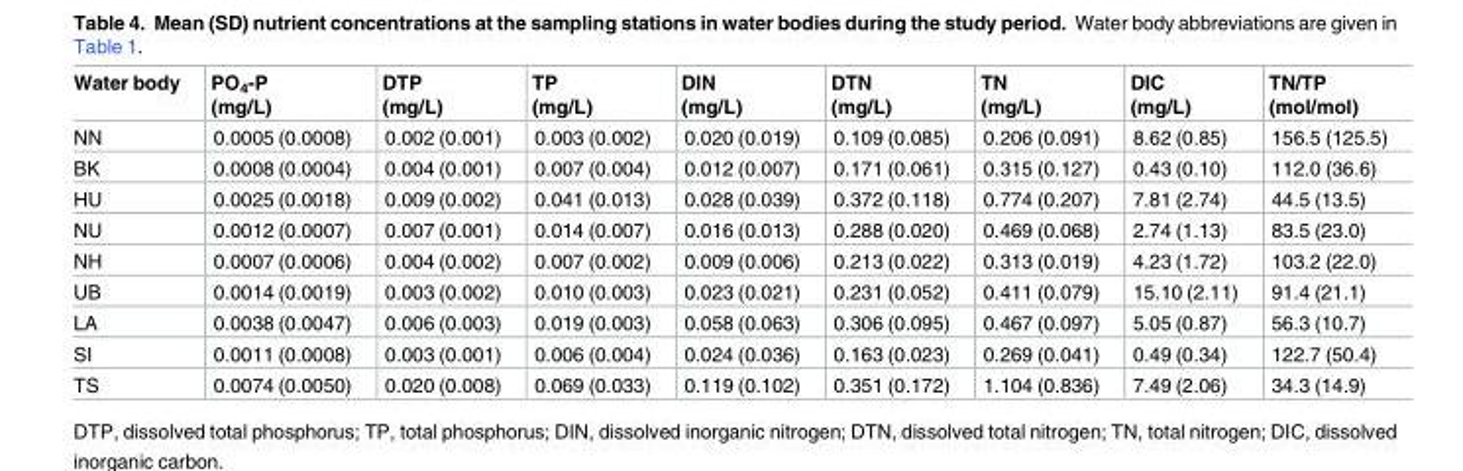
<table><thead><tr><td>Water body</td><td>PO<sub>4</sub>-P (mg/L)</td><td>DTP (mg/L)</td><td>TP (mg/L)</td><td>DIN (mg/L)</td><td>DTN (mg/L)</td><td>TN (mg/L)</td><td>DIC (mg/L)</td><td>TN/TP (mol/mol)</td></tr></thead><tbody><tr><td>NN</td><td>0.0005 (0.0008)</td><td>0.002 (0.001)</td><td>0.003 (0.002)</td><td>0.020 (0.019)</td><td>0.109 (0.085)</td><td>0.206 (0.091)</td><td>8.62 (0.85)</td><td>156.5 (125.5)</td></tr><tr><td>BK</td><td>0.0008 (0.0004)</td><td>0.004 (0.001)</td><td>0.007 (0.004)</td><td>0.012 (0.007)</td><td>0.171 (0.061)</td><td>0.315 (0.127)</td><td>0.43 (0.10)</td><td>112.0 (36.6)</td></tr><tr><td>HU</td><td>0.0025 (0.0018)</td><td>0.009 (0.002)</td><td>0.041 (0.013)</td><td>0.028 (0.039)</td><td>0.372 (0.118)</td><td>0.774 (0.207)</td><td>7.81 (2.74)</td><td>44.5 (13.5)</td></tr><tr><td>NU</td><td>0.0012 (0.0007)</td><td>0.007 (0.001)</td><td>0.014 (0.007)</td><td>0.016 (0.013)</td><td>0.288 (0.020)</td><td>0.469 (0.068)</td><td>2.74 (1.13)</td><td>83.5 (23.0)</td></tr><tr><td>NH</td><td>0.0007 (0.0006)</td><td>0.004 (0.002)</td><td>0.007 (0.002)</td><td>0.009 (0.006)</td><td>0.213 (0.022)</td><td>0.313 (0.019)</td><td>4.23 (1.72)</td><td>103.2 (22.0)</td></tr><tr><td>UB</td><td>0.0014 (0.0019)</td><td>0.003 (0.002)</td><td>0.010 (0.003)</td><td>0.023 (0.021)</td><td>0.231 (0.052)</td><td>0.411 (0.079)</td><td>15.10 (2.11)</td><td>91.4 (21.1)</td></tr><tr><td>LA</td><td>0.0038 (0.0047)</td><td>0.006 (0.003)</td><td>0.019 (0.003)</td><td>0.058 (0.063)</td><td>0.306 (0.095)</td><td>0.467 (0.097)</td><td>5.05 (0.87)</td><td>56.3 (10.7)</td></tr><tr><td>SI</td><td>0.0011 (0.0008)</td><td>0.003 (0.001)</td><td>0.006 (0.004)</td><td>0.024 (0.036)</td><td>0.163 (0.023)</td><td>0.269 (0.041)</td><td>0.49 (0.34)</td><td>122.7 (50.4)</td></tr><tr><td>TS</td><td>0.0074 (0.0050)</td><td>0.020 (0.008)</td><td>0.069 (0.033)</td><td>0.119 (0.102)</td><td>0.351 (0.172)</td><td>1.104 (0.836)</td><td>7.49 (2.06)</td><td>34.3 (14.9)</td></tr></tbody></table>